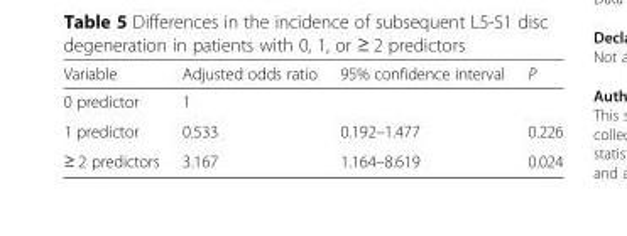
<table><thead><tr><td>Variable</td><td>Adjusted odds ratio</td><td>95% confidence interval</td><td>P</td></tr></thead><tbody><tr><td>0 predictor</td><td>1</td><td></td><td></td></tr><tr><td>1 predictor</td><td>0.533</td><td>0.192–1.477</td><td>0.226</td></tr><tr><td>≥ 2 predictors</td><td>3.167</td><td>1.164–8.619</td><td>0.024</td></tr></tbody></table>